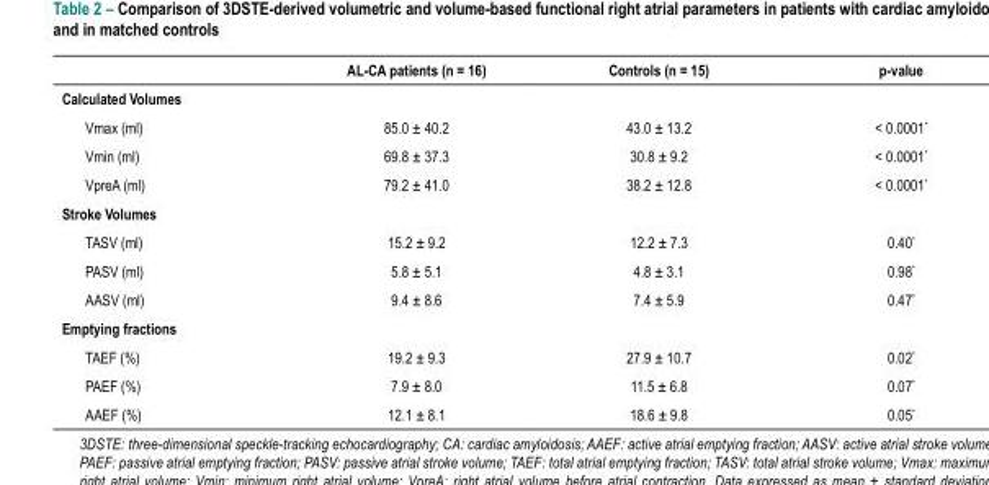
<table><thead><tr><td></td><td>AL-CA patients (n = 16)</td><td>Controls (n = 15)</td><td>p-value</td></tr></thead><tbody><tr><td colspan="4">Calculated Volumes</td></tr><tr><td>Vmax (ml)</td><td>85.0 ± 40.2</td><td>43.0 ± 13.2</td><td>&lt; 0.0001*</td></tr><tr><td>Vmin (ml)</td><td>69.8 ± 37.3</td><td>30.8 ± 9.2</td><td>&lt; 0.0001*</td></tr><tr><td>VpreA (ml)</td><td>79.2 ± 41.0</td><td>38.2 ± 12.8</td><td>&lt; 0.0001*</td></tr><tr><td colspan="4">Stroke Volumes</td></tr><tr><td>TASV (ml)</td><td>15.2 ± 9.2</td><td>12.2 ± 7.3</td><td>0.40*</td></tr><tr><td>PASV (ml)</td><td>5.8 ± 5.1</td><td>4.8 ± 3.1</td><td>0.98*</td></tr><tr><td>AASV (ml)</td><td>9.4 ± 8.6</td><td>7.4 ± 5.9</td><td>0.47*</td></tr><tr><td colspan="4">Emptying fractions</td></tr><tr><td>TAEF (%)</td><td>19.2 ± 9.3</td><td>27.9 ± 10.7</td><td>0.02*</td></tr><tr><td>PAEF (%)</td><td>7.9 ± 8.0</td><td>11.5 ± 6.8</td><td>0.07*</td></tr><tr><td>AAEF (%)</td><td>12.1 ± 8.1</td><td>18.6 ± 9.8</td><td>0.05*</td></tr></tbody></table>